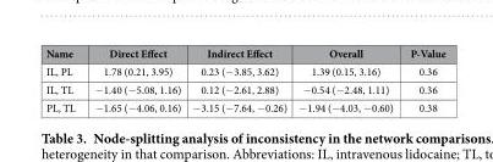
<table><thead><tr><td>Name</td><td>Direct Effect</td><td>Indirect Effect</td><td>Overall</td><td>P-Value</td></tr></thead><tbody><tr><td>IL, PL</td><td>1.78 (0.21, 3.95)</td><td>0.23 (− 3.85, 3.62)</td><td>1.39 (0.15, 3.16)</td><td>0.36</td></tr><tr><td>IL, TL</td><td>− 1.40 (− 5.08, 1.16)</td><td>0.12 (− 2.61, 2.88)</td><td>− 0.54 (− 2.48, 1.11)</td><td>0.36</td></tr><tr><td>PL, TL</td><td>− 1.65 (− 4.06, 0.16)</td><td>− 3.15 (− 7.64, − 0.26)</td><td>− 1.94 (− 4.03, − 0.60)</td><td>0.38</td></tr></tbody></table>